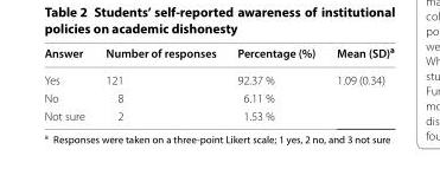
<table><thead><tr><td>Answer</td><td>Number of responses</td><td>Percentage (%)</td><td>Mean (SD)<sup>a</sup></td></tr></thead><tbody><tr><td>Yes</td><td>121</td><td>92.37 %</td><td rowspan="3">1.09 (0.34)</td></tr><tr><td>No</td><td>8</td><td>6.11 %</td></tr><tr><td>Not sure</td><td>2</td><td>1.53 %</td></tr></tbody></table>